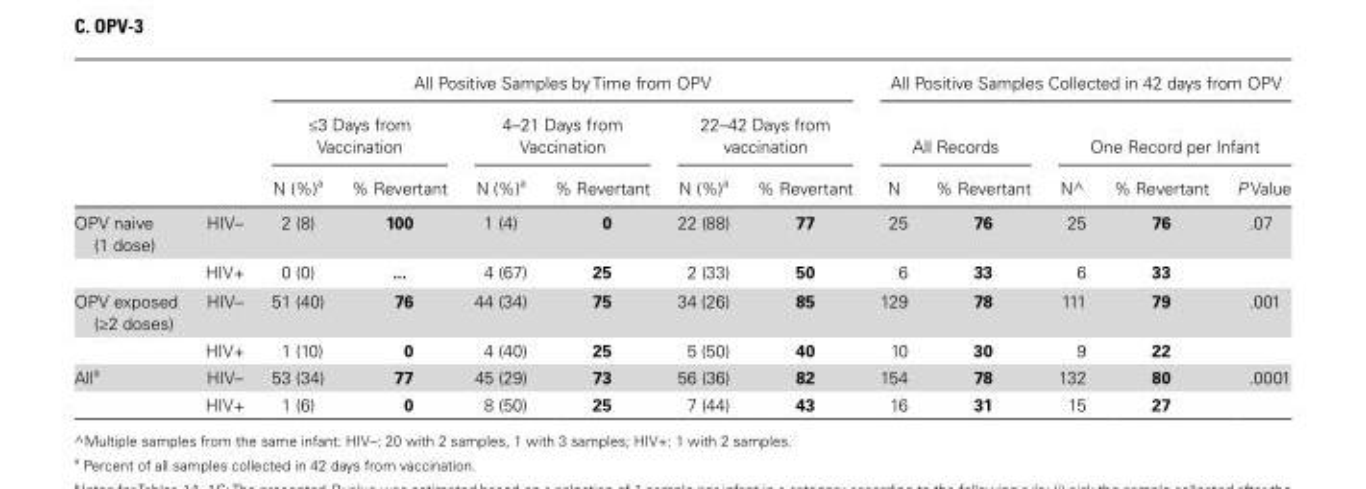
<table><thead><tr><td rowspan="3"></td><td rowspan="3"></td><td colspan="6">All Positive Samples by Time from OPV</td><td colspan="5">All Positive Samples Collected in 42 days from OPV</td></tr><tr><td colspan="2">≤3 Days from Vaccination</td><td colspan="2">4–21 Days from Vaccination</td><td colspan="2">22–42 Days from vaccination</td><td colspan="2">All Records</td><td colspan="3">One Record per Infant</td></tr><tr><td>N (%)<sup>a</sup></td><td>% Revertant</td><td>N (%)<sup>a</sup></td><td>% Revertant</td><td>N (%)<sup>a</sup></td><td>% Revertant</td><td>N</td><td>% Revertant</td><td>N^</td><td>% Revertant</td><td>P Value</td></tr></thead><tbody><tr><td rowspan="2">OPV naive (1 dose)</td><td>HIV–</td><td>2 (8)</td><td>100</td><td>1 (4)</td><td>0</td><td>22 (88)</td><td>77</td><td>25</td><td>76</td><td>25</td><td>76</td><td>.07</td></tr><tr><td>HIV+</td><td>0 (0)</td><td>...</td><td>4 (67)</td><td>25</td><td>2 (33)</td><td>50</td><td>6</td><td>33</td><td>6</td><td>33</td><td></td></tr><tr><td rowspan="2">OPV exposed (≥2 doses)</td><td>HIV–</td><td>51 (40)</td><td>76</td><td>44 (34)</td><td>75</td><td>34 (26)</td><td>85</td><td>129</td><td>78</td><td>111</td><td>79</td><td>.001</td></tr><tr><td>HIV+</td><td>1 (10)</td><td>0</td><td>4 (40)</td><td>25</td><td>5 (50)</td><td>40</td><td>10</td><td>30</td><td>9</td><td>22</td><td></td></tr><tr><td rowspan="2">All<sup>a</sup></td><td>HIV–</td><td>53 (34)</td><td>77</td><td>45 (29)</td><td>73</td><td>56 (36)</td><td>82</td><td>154</td><td>78</td><td>132</td><td>80</td><td>.0001</td></tr><tr><td>HIV+</td><td>1 (6)</td><td>0</td><td>8 (50)</td><td>25</td><td>7 (44)</td><td>43</td><td>16</td><td>31</td><td>15</td><td>27</td><td></td></tr></tbody></table>